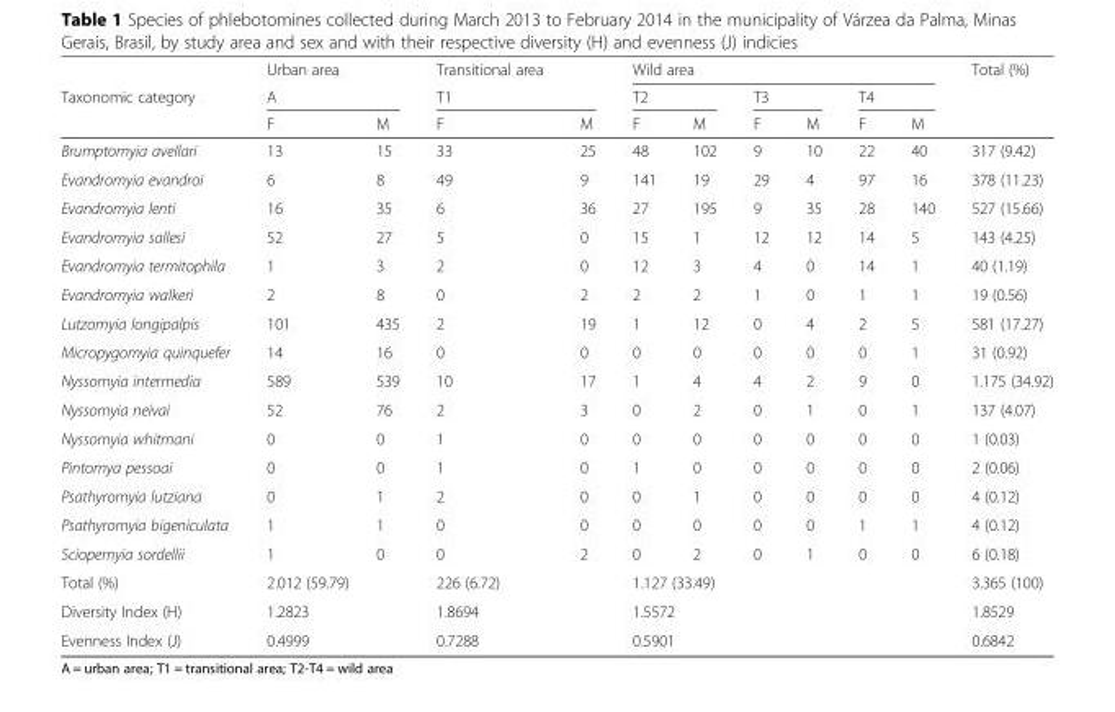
<table><thead><tr><td rowspan="3">Taxonomic category</td><td>Urban area</td><td></td><td>Transitional area</td><td></td><td colspan="6">Wild area</td><td rowspan="3">Total (%)</td></tr><tr><td colspan="2">A</td><td colspan="2">T1</td><td colspan="2">T2</td><td colspan="2">T3</td><td colspan="2">T4</td></tr><tr><td>F</td><td>M</td><td>F</td><td>M</td><td>F</td><td>M</td><td>F</td><td>M</td><td>F</td><td>M</td></tr></thead><tbody><tr><td>Brumptomyia avellari</td><td>13</td><td>15</td><td>33</td><td>25</td><td>48</td><td>102</td><td>9</td><td>10</td><td>22</td><td>40</td><td>317 (9.42)</td></tr><tr><td>Evandromyia evandroi</td><td>6</td><td>8</td><td>49</td><td>9</td><td>141</td><td>19</td><td>29</td><td>4</td><td>97</td><td>16</td><td>378 (11.23)</td></tr><tr><td>Evandromyia lenti</td><td>16</td><td>35</td><td>6</td><td>36</td><td>27</td><td>195</td><td>9</td><td>35</td><td>28</td><td>140</td><td>527 (15.66)</td></tr><tr><td>Evandromyia sallesi</td><td>52</td><td>27</td><td>5</td><td>0</td><td>15</td><td>1</td><td>12</td><td>12</td><td>14</td><td>5</td><td>143 (4.25)</td></tr><tr><td>Evandromyia termitophila</td><td>1</td><td>3</td><td>2</td><td>0</td><td>12</td><td>3</td><td>4</td><td>0</td><td>14</td><td>1</td><td>40 (1.19)</td></tr><tr><td>Evandromyia walkeri</td><td>2</td><td>8</td><td>0</td><td>2</td><td>2</td><td>2</td><td>1</td><td>0</td><td>1</td><td>1</td><td>19 (0.56)</td></tr><tr><td>Lutzomyia longipalpis</td><td>101</td><td>435</td><td>2</td><td>19</td><td>1</td><td>12</td><td>0</td><td>4</td><td>2</td><td>5</td><td>581 (17.27)</td></tr><tr><td>Micropygomyia quinquefer</td><td>14</td><td>16</td><td>0</td><td>0</td><td>0</td><td>0</td><td>0</td><td>0</td><td>0</td><td>1</td><td>31 (0.92)</td></tr><tr><td>Nyssomyia intermedia</td><td>589</td><td>539</td><td>10</td><td>17</td><td>1</td><td>4</td><td>4</td><td>2</td><td>9</td><td>0</td><td>1.175 (34.92)</td></tr><tr><td>Nyssomyia neivai</td><td>52</td><td>76</td><td>2</td><td>3</td><td>0</td><td>2</td><td>0</td><td>1</td><td>0</td><td>1</td><td>137 (4.07)</td></tr><tr><td>Nyssomyia whitmani</td><td>0</td><td>0</td><td>1</td><td>0</td><td>0</td><td>0</td><td>0</td><td>0</td><td>0</td><td>0</td><td>1 (0.03)</td></tr><tr><td>Pintomya pessoai</td><td>0</td><td>0</td><td>1</td><td>0</td><td>1</td><td>0</td><td>0</td><td>0</td><td>0</td><td>0</td><td>2 (0.06)</td></tr><tr><td>Psathyromyia lutziana</td><td>0</td><td>1</td><td>2</td><td>0</td><td>0</td><td>1</td><td>0</td><td>0</td><td>0</td><td>0</td><td>4 (0.12)</td></tr><tr><td>Psathyromyia bigeniculata</td><td>1</td><td>1</td><td>0</td><td>0</td><td>0</td><td>0</td><td>0</td><td>0</td><td>1</td><td>1</td><td>4 (0.12)</td></tr><tr><td>Sciopemyia sordellii</td><td>1</td><td>0</td><td>0</td><td>2</td><td>0</td><td>2</td><td>0</td><td>1</td><td>0</td><td>0</td><td>6 (0.18)</td></tr><tr><td>Total (%)</td><td colspan="2">2.012 (59.79)</td><td colspan="2">226 (6.72)</td><td colspan="6">1.127 (33.49)</td><td>3.365 (100)</td></tr><tr><td>Diversity Index (H)</td><td colspan="2">1.2823</td><td colspan="2">1.8694</td><td colspan="6">1.5572</td><td>1.8529</td></tr><tr><td>Evenness Index (J)</td><td colspan="2">0.4999</td><td colspan="2">0.7288</td><td colspan="6">0.5901</td><td>0.6842</td></tr></tbody></table>